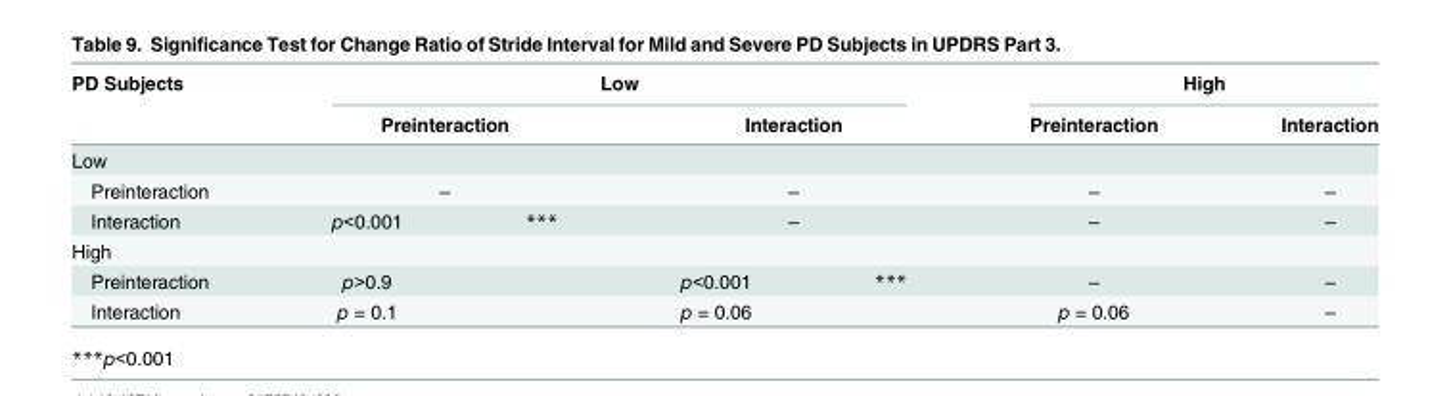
<table><thead><tr><td rowspan="2">PD Subjects</td><td colspan="4">Low</td><td colspan="2">High</td></tr><tr><td colspan="2">Preinteraction</td><td colspan="2">Interaction</td><td>Preinteraction</td><td>Interaction</td></tr></thead><tbody><tr><td colspan="7">Low</td></tr><tr><td>Preinteraction</td><td colspan="2">–</td><td colspan="2">–</td><td>–</td><td>–</td></tr><tr><td>Interaction</td><td>p&lt;0.001</td><td>***</td><td colspan="2">–</td><td>–</td><td>–</td></tr><tr><td colspan="7">High</td></tr><tr><td>Preinteraction</td><td>p&gt;0.9</td><td></td><td>p&lt;0.001</td><td>***</td><td>–</td><td>–</td></tr><tr><td>Interaction</td><td>p = 0.1</td><td></td><td>p = 0.06</td><td></td><td>p = 0.06</td><td>–</td></tr></tbody></table>